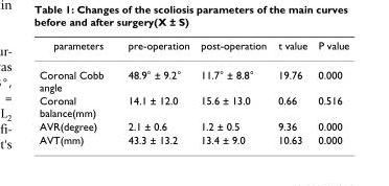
<table><thead><tr><td>parameters</td><td>pre-operation</td><td>post-operation</td><td>t value</td><td>P value</td></tr></thead><tbody><tr><td>Coronal Cobb angle</td><td>48.9° ± 9.2°</td><td>11.7° ± 8.8°</td><td>19.76</td><td>0.000</td></tr><tr><td>Coronal balance(mm)</td><td>14.1 ± 12.0</td><td>15.6 ± 13.0</td><td>0.66</td><td>0.516</td></tr><tr><td>AVR(degree)</td><td>2.1 ± 0.6</td><td>1.2 ± 0.5</td><td>9.36</td><td>0.000</td></tr><tr><td>AVT(mm)</td><td>43.3 ± 13.2</td><td>13.4 ± 9.0</td><td>10.63</td><td>0.000</td></tr></tbody></table>